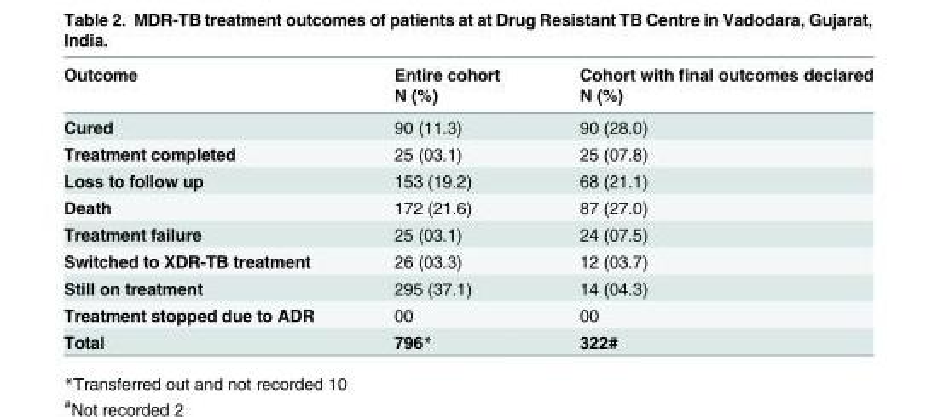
<table><thead><tr><td rowspan="2">Outcome</td><td rowspan="2">Entire cohort N (%)</td><td rowspan="2">Cohort with final outcomes declared N (%)</td></tr><tr></tr></thead><tbody><tr><td>Cured</td><td>90 (11.3)</td><td>90 (28.0)</td></tr><tr><td>Treatment completed</td><td>25 (03.1)</td><td>25 (07.8)</td></tr><tr><td>Loss to follow up</td><td>153 (19.2)</td><td>68 (21.1)</td></tr><tr><td>Death</td><td>172 (21.6)</td><td>87 (27.0)</td></tr><tr><td>Treatment failure</td><td>25 (03.1)</td><td>24 (07.5)</td></tr><tr><td>Switched to XDR-TB treatment</td><td>26 (03.3)</td><td>12 (03.7)</td></tr><tr><td>Still on treatment</td><td>295 (37.1)</td><td>14 (04.3)</td></tr><tr><td>Treatment stopped due to ADR</td><td>00</td><td>00</td></tr><tr><td>Total</td><td>796*</td><td>322#</td></tr></tbody></table>